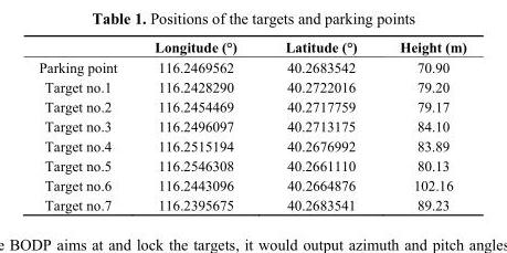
<table><thead><tr><td></td><td>Longitude (°)</td><td>Latitude (°)</td><td>Height (m)</td></tr></thead><tbody><tr><td>Parking point</td><td>116.2469562</td><td>40.2683542</td><td>70.90</td></tr><tr><td>Target no.1</td><td>116.2428290</td><td>40.2722016</td><td>79.20</td></tr><tr><td>Target no.2</td><td>116.2454469</td><td>40.2717759</td><td>79.17</td></tr><tr><td>Target no.3</td><td>116.2496097</td><td>40.2713175</td><td>84.10</td></tr><tr><td>Target no.4</td><td>116.2515194</td><td>40.2676992</td><td>83.89</td></tr><tr><td>Target no.5</td><td>116.2546308</td><td>40.2661110</td><td>80.13</td></tr><tr><td>Target no.6</td><td>116.2443096</td><td>40.2664876</td><td>102.16</td></tr><tr><td>Target no.7</td><td>116.2395675</td><td>40.2683541</td><td>89.23</td></tr></tbody></table>